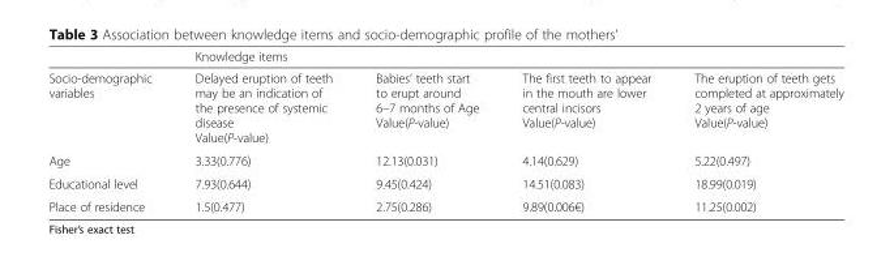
<table><thead><tr><td rowspan="2">Socio-demographic variables</td><td colspan="4">Knowledge items</td></tr><tr><td>Delayed eruption of teeth may be an indication of the presence of systemic disease Value(P-value)</td><td>Babies’ teeth start to erupt around 6–7 months of Age Value(P-value)</td><td>The first teeth to appear in the mouth are lower central incisors Value(P-value)</td><td>The eruption of teeth gets completed at approximately 2 years of age Value(P-value)</td></tr></thead><tbody><tr><td>Age</td><td>3.33(0.776)</td><td>12.13(0.031)</td><td>4.14(0.629)</td><td>5.22(0.497)</td></tr><tr><td>Educational level</td><td>7.93(0.644)</td><td>9.45(0.424)</td><td>14.51(0.083)</td><td>18.99(0.019)</td></tr><tr><td>Place of residence</td><td>1.5(0.477)</td><td>2.75(0.286)</td><td>9.89(0.006€)</td><td>11.25(0.002)</td></tr></tbody></table>